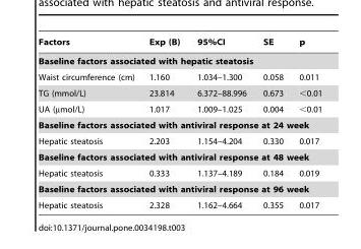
<table><thead><tr><td>Factors</td><td>Exp (B)</td><td>95%CI</td><td>SE</td><td>p</td></tr></thead><tbody><tr><td colspan="5">Baseline factors associated with hepatic steatosis</td></tr><tr><td>Waist circumference (cm)</td><td>1.160</td><td>1.034–1.300</td><td>0.058</td><td>0.011</td></tr><tr><td>TG (mmol/L)</td><td>23.814</td><td>6.372–88.996</td><td>0.673</td><td>&lt;0.01</td></tr><tr><td>UA (µmol/L)</td><td>1.017</td><td>1.009–1.025</td><td>0.004</td><td>&lt;0.01</td></tr><tr><td colspan="5">Baseline factors associated with antiviral response at 24 week</td></tr><tr><td>Hepatic steatosis</td><td>2.203</td><td>1.154–4.204</td><td>0.330</td><td>0.017</td></tr><tr><td colspan="5">Baseline factors associated with antiviral response at 48 week</td></tr><tr><td>Hepatic steatosis</td><td>0.333</td><td>1.137–4.189</td><td>0.184</td><td>0.019</td></tr><tr><td colspan="5">Baseline factors associated with antiviral response at 96 week</td></tr><tr><td>Hepatic steatosis</td><td>2.328</td><td>1.162–4.664</td><td>0.355</td><td>0.017</td></tr></tbody></table>